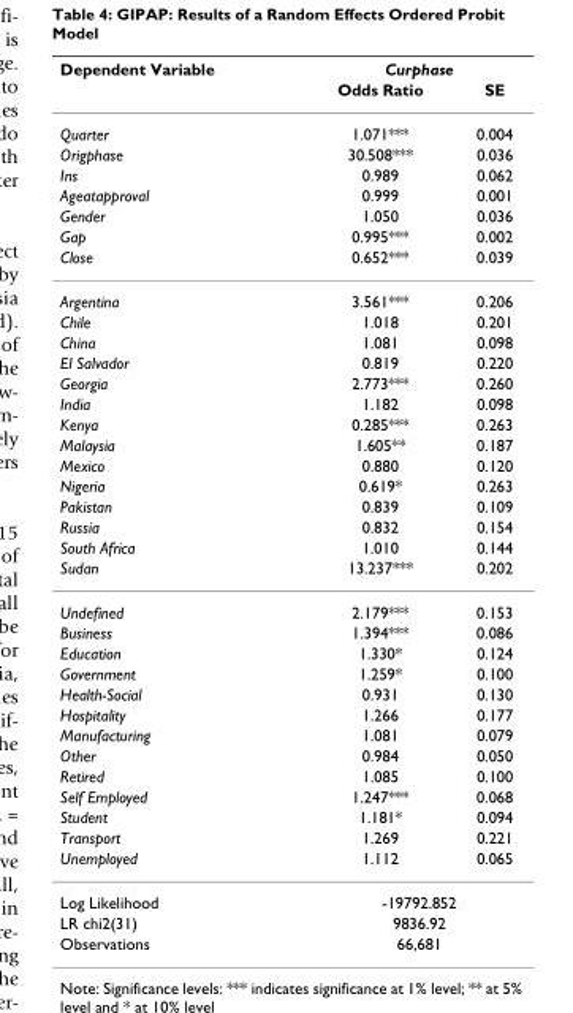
<table><thead><tr><td rowspan="2">Dependent Variable</td><td colspan="2">Curphase</td></tr><tr><td>Odds Ratio</td><td>SE</td></tr></thead><tbody><tr><td>Quarter</td><td>1.071***</td><td>0.004</td></tr><tr><td>Origphase</td><td>30.508***</td><td>0.036</td></tr><tr><td>Ins</td><td>0.989</td><td>0.062</td></tr><tr><td>Ageatapproval</td><td>0.999</td><td>0.001</td></tr><tr><td>Gender</td><td>1.050</td><td>0.036</td></tr><tr><td>Gap</td><td>0.995***</td><td>0.002</td></tr><tr><td>Close</td><td>0.652***</td><td>0.039</td></tr><tr><td>Argentina</td><td>3.561***</td><td>0.206</td></tr><tr><td>Chile</td><td>1.018</td><td>0.201</td></tr><tr><td>China</td><td>1.081</td><td>0.098</td></tr><tr><td>El Salvador</td><td>0.819</td><td>0.220</td></tr><tr><td>Georgia</td><td>2.773***</td><td>0.260</td></tr><tr><td>India</td><td>1.182</td><td>0.098</td></tr><tr><td>Kenya</td><td>0.285***</td><td>0.263</td></tr><tr><td>Malaysia</td><td>1.605**</td><td>0.187</td></tr><tr><td>Mexico</td><td>0.880</td><td>0.120</td></tr><tr><td>Nigeria</td><td>0.619*</td><td>0.263</td></tr><tr><td>Pakistan</td><td>0.839</td><td>0.109</td></tr><tr><td>Russia</td><td>0.832</td><td>0.154</td></tr><tr><td>South Africa</td><td>1.010</td><td>0.144</td></tr><tr><td>Sudan</td><td>13.237***</td><td>0.202</td></tr><tr><td>Undefined</td><td>2.179***</td><td>0.153</td></tr><tr><td>Business</td><td>1.394***</td><td>0.086</td></tr><tr><td>Education</td><td>1.330*</td><td>0.124</td></tr><tr><td>Government</td><td>1.259*</td><td>0.100</td></tr><tr><td>Health-Social</td><td>0.931</td><td>0.130</td></tr><tr><td>Hospitality</td><td>1.266</td><td>0.177</td></tr><tr><td>Manufacturing</td><td>1.081</td><td>0.079</td></tr><tr><td>Other</td><td>0.984</td><td>0.050</td></tr><tr><td>Retired</td><td>1.085</td><td>0.100</td></tr><tr><td>Self Employed</td><td>1.247***</td><td>0.068</td></tr><tr><td>Student</td><td>1.181*</td><td>0.094</td></tr><tr><td>Transport</td><td>1.269</td><td>0.221</td></tr><tr><td>Unemployed</td><td>1.112</td><td>0.065</td></tr><tr><td>Log Likelihood</td><td colspan="2">-19792.852</td></tr><tr><td>LR chi2(31)</td><td colspan="2">9836.92</td></tr><tr><td>Observations</td><td colspan="2">66,681</td></tr></tbody></table>